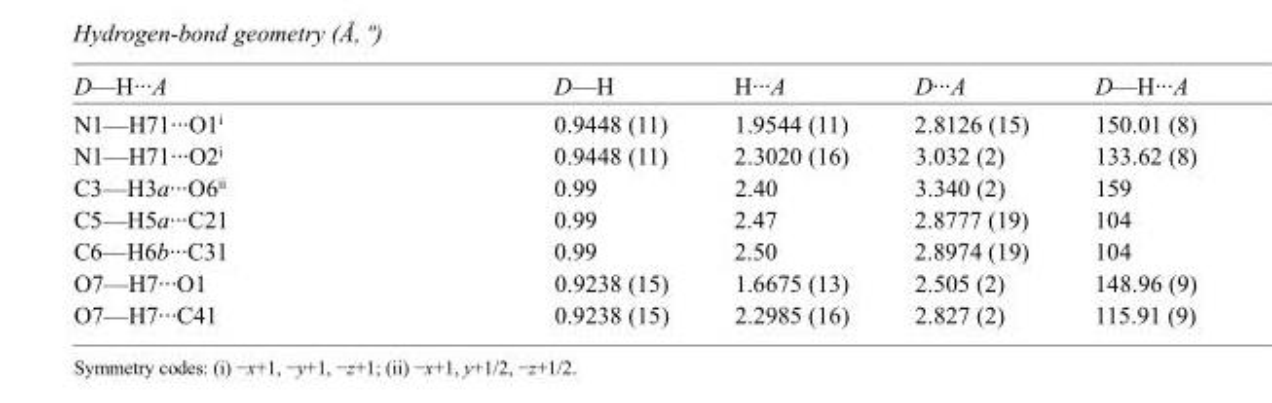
<table><tbody><tr><td>D—H···A</td><td>D—H</td><td>H···A</td><td>D···A</td><td>D—H···A</td></tr><tr><td>N1—H71···O1<sup>i</sup></td><td>0.9448 (11)</td><td>1.9544 (11)</td><td>2.8126 (15)</td><td>150.01 (8)</td></tr><tr><td>N1—H71···O2<sup>i</sup></td><td>0.9448 (11)</td><td>2.3020 (16)</td><td>3.032 (2)</td><td>133.62 (8)</td></tr><tr><td>C3—H3a···O6<sup>ii</sup></td><td>0.99</td><td>2.40</td><td>3.340 (2)</td><td>159</td></tr><tr><td>C5—H5a···C21</td><td>0.99</td><td>2.47</td><td>2.8777 (19)</td><td>104</td></tr><tr><td>C6—H6b···C31</td><td>0.99</td><td>2.50</td><td>2.8974 (19)</td><td>104</td></tr><tr><td>O7—H7···O1</td><td>0.9238 (15)</td><td>1.6675 (13)</td><td>2.505 (2)</td><td>148.96 (9)</td></tr><tr><td>O7—H7···C41</td><td>0.9238 (15)</td><td>2.2985 (16)</td><td>2.827 (2)</td><td>115.91 (9)</td></tr></tbody></table>